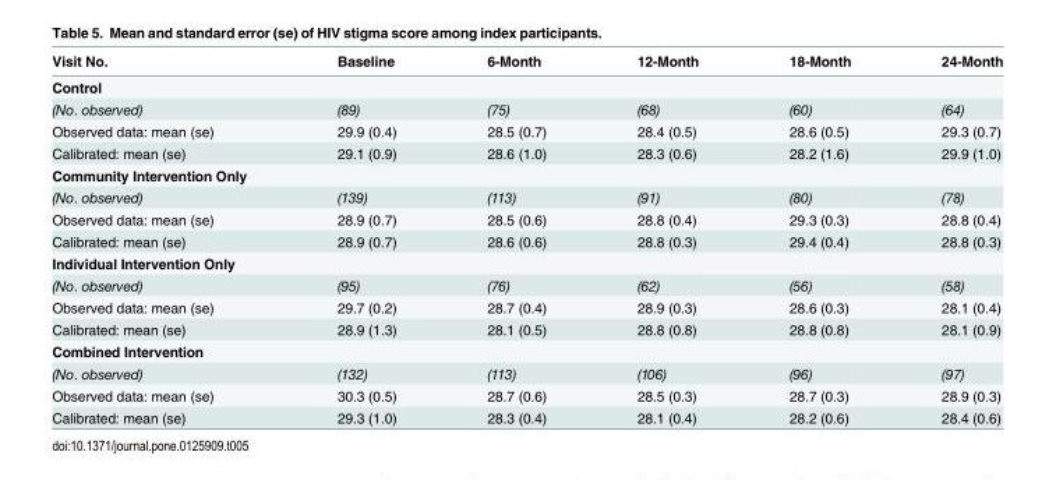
<table><thead><tr><td>Visit No.</td><td>Baseline</td><td>6-Month</td><td>12-Month</td><td>18-Month</td><td>24-Month</td></tr></thead><tbody><tr><td colspan="6">Control</td></tr><tr><td>(No. observed)</td><td>(89)</td><td>(75)</td><td>(68)</td><td>(60)</td><td>(64)</td></tr><tr><td>Observed data: mean (se)</td><td>29.9 (0.4)</td><td>28.5 (0.7)</td><td>28.4 (0.5)</td><td>28.6 (0.5)</td><td>29.3 (0.7)</td></tr><tr><td>Calibrated: mean (se)</td><td>29.1 (0.9)</td><td>28.6 (1.0)</td><td>28.3 (0.6)</td><td>28.2 (1.6)</td><td>29.9 (1.0)</td></tr><tr><td colspan="6">Community Intervention Only</td></tr><tr><td>(No. observed)</td><td>(139)</td><td>(113)</td><td>(91)</td><td>(80)</td><td>(78)</td></tr><tr><td>Observed data: mean (se)</td><td>28.9 (0.7)</td><td>28.5 (0.6)</td><td>28.8 (0.4)</td><td>29.3 (0.3)</td><td>28.8 (0.4)</td></tr><tr><td>Calibrated: mean (se)</td><td>28.9 (0.7)</td><td>28.6 (0.6)</td><td>28.8 (0.3)</td><td>29.4 (0.4)</td><td>28.8 (0.3)</td></tr><tr><td colspan="6">Individual Intervention Only</td></tr><tr><td>(No. observed)</td><td>(95)</td><td>(76)</td><td>(62)</td><td>(56)</td><td>(58)</td></tr><tr><td>Observed data: mean (se)</td><td>29.7 (0.2)</td><td>28.7 (0.4)</td><td>28.9 (0.3)</td><td>28.6 (0.3)</td><td>28.1 (0.4)</td></tr><tr><td>Calibrated: mean (se)</td><td>28.9 (1.3)</td><td>28.1 (0.5)</td><td>28.8 (0.8)</td><td>28.8 (0.8)</td><td>28.1 (0.9)</td></tr><tr><td colspan="6">Combined Intervention</td></tr><tr><td>(No. observed)</td><td>(132)</td><td>(113)</td><td>(106)</td><td>(96)</td><td>(97)</td></tr><tr><td>Observed data: mean (se)</td><td>30.3 (0.5)</td><td>28.7 (0.6)</td><td>28.5 (0.3)</td><td>28.7 (0.3)</td><td>28.9 (0.3)</td></tr><tr><td>Calibrated: mean (se)</td><td>29.3 (1.0)</td><td>28.3 (0.4)</td><td>28.1 (0.4)</td><td>28.2 (0.6)</td><td>28.4 (0.6)</td></tr></tbody></table>